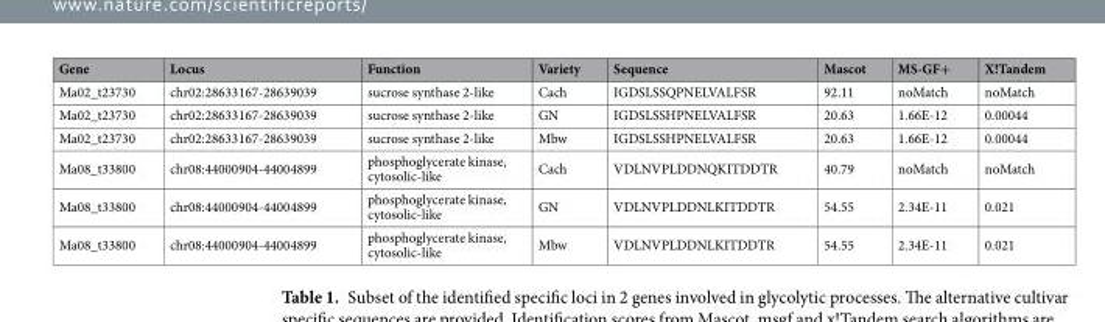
<table><thead><tr><td>Gene</td><td>Locus</td><td>Function</td><td>Variety</td><td>Sequence</td><td>Mascot</td><td>MS-GF+</td><td>X!Tandem</td></tr></thead><tbody><tr><td>Ma02_t23730</td><td>chr02:28633167-28639039</td><td>sucrose synthase 2-like</td><td>Cach</td><td>IGDSLSSQPNELVALFSR</td><td>92.11</td><td>noMatch</td><td>noMatch</td></tr><tr><td>Ma02_t23730</td><td>chr02:28633167-28639039</td><td>sucrose synthase 2-like</td><td>GN</td><td>IGDSLSSHPNELVALFSR</td><td>20.63</td><td>1.66E-12</td><td>0.00044</td></tr><tr><td>Ma02_t23730</td><td>chr02:28633167-28639039</td><td>sucrose synthase 2-like</td><td>Mbw</td><td>IGDSLSSHPNELVALFSR</td><td>20.63</td><td>1.66E-12</td><td>0.00044</td></tr><tr><td>Ma08_t33800</td><td>chr08:44000904-44004899</td><td>phosphoglycerate kinase, cytosolic-like</td><td>Cach</td><td>VDLNVPLDDNQKITDDTR</td><td>40.79</td><td>noMatch</td><td>noMatch</td></tr><tr><td>Ma08_t33800</td><td>chr08:44000904-44004899</td><td>phosphoglycerate kinase, cytosolic-like</td><td>GN</td><td>VDLNVPLDDNLKITDDTR</td><td>54.55</td><td>2.34E-11</td><td>0.021</td></tr><tr><td>Ma08_t33800</td><td>chr08:44000904-44004899</td><td>phosphoglycerate kinase, cytosolic-like</td><td>Mbw</td><td>VDLNVPLDDNLKITDDTR</td><td>54.55</td><td>2.34E-11</td><td>0.021</td></tr></tbody></table>